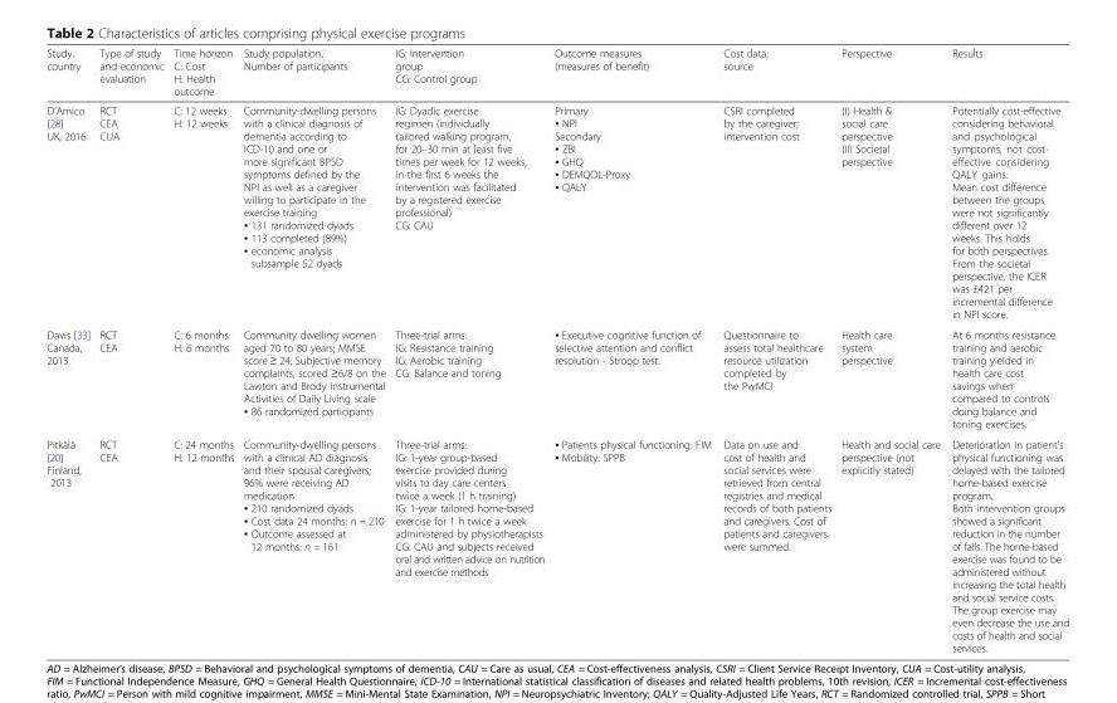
<table><thead><tr><td>Study, country</td><td>Type of study and economic evaluation</td><td>Time horizon C: Cost H: Health outcome</td><td>Study population, Number of participants</td><td>IG: Intervention group CG: Control group</td><td>Outcome measures (measures of benefit)</td><td>Cost data; source</td><td>Perspective</td><td>Results</td></tr></thead><tbody><tr><td>D’Amico [28] UK, 2016</td><td>RCT CEA CUA</td><td>C: 12 weeks H: 12 weeks</td><td>Community-dwelling persons with a clinical diagnosis of dementia according to ICD-10 and one or more significant BPSD symptoms defined by the NPI as well as a caregiver willing to participate in the exercise training ▪ 131 randomized dyads ▪ 113 completed (89%) ▪ economic analysis subsample 52 dyads</td><td>IG: Dyadic exercise regimen (individually tailored walking program, for 20–30 min at least five times per week for 12 weeks, in the first 6 weeks the intervention was facilitated by a registered exercise professional) CG: CAU</td><td>Primary ▪ NPI Secondary ▪ ZBI ▪ GHQ ▪ DEMQOL-Proxy ▪ QALY</td><td>CSRI completed by the caregiver; intervention cost</td><td>(I) Health &amp; social care perspective (II) Societal perspective</td><td>Potentially cost-effective considering behavioral and psychological symptoms, not cost- effective considering QALY gains. Mean cost difference between the groups were not significantly different over 12 weeks. This holds for both perspectives. From the societal perspective, the ICER was £421 per incremental difference in NPI score.</td></tr><tr><td>Davis [33] Canada, 2013</td><td>RCT CEA</td><td>C: 6 months H: 6 months</td><td>Community dwelling women aged 70 to 80 years; MMSE score ≥ 24; Subjective memory complaints, scored ≥6/8 on the Lawton and Brody Instrumental Activities of Daily Living scale ▪ 86 randomized participants</td><td>Three-trial arms: IG: Resistance training IG: Aerobic training CG: Balance and toning</td><td>▪ Executive cognitive function of selective attention and conflict resolution - Stroop test</td><td>Questionnaire to assess total healthcare resource utilization completed by the PwMCI</td><td>Health care system perspective</td><td>At 6 months resistance training and aerobic training yielded in health care cost savings when compared to controls doing balance and toning exercises.</td></tr><tr><td>Pitkälä [20] Finland, 2013</td><td>RCT CEA</td><td>C: 24 months H: 12 months</td><td>Community-dwelling persons with a clinical AD diagnosis and their spousal caregivers; 96% were receiving AD medication ▪ 210 randomized dyads ▪ Cost data 24 months: n = 210 ▪ Outcome assessed at 12 months: n = 161</td><td>Three-trial arms: IG: 1-year group-based exercise provided during visits to day care centers twice a week (1 h training) IG: 1-year tailored home-based exercise for 1 h twice a week administered by physiotherapists CG: CAU and subjects received oral and written advice on nutrition and exercise methods</td><td>▪ Patients physical functioning: FIM ▪ Mobility: SPPB</td><td>Data on use and cost of health and social services were retrieved from central registries and medical records of both patients and caregivers. Cost of patients and caregivers were summed.</td><td>Health and social care perspective (not explicitly stated)</td><td>Deterioration in patient’s physical functioning was delayed with the tailored home-based exercise program. Both intervention groups showed a significant reduction in the number of falls. The home-based exercise was found to be administered without increasing the total health and social service costs. The group exercise may even decrease the use and costs of health and social services.</td></tr></tbody></table>